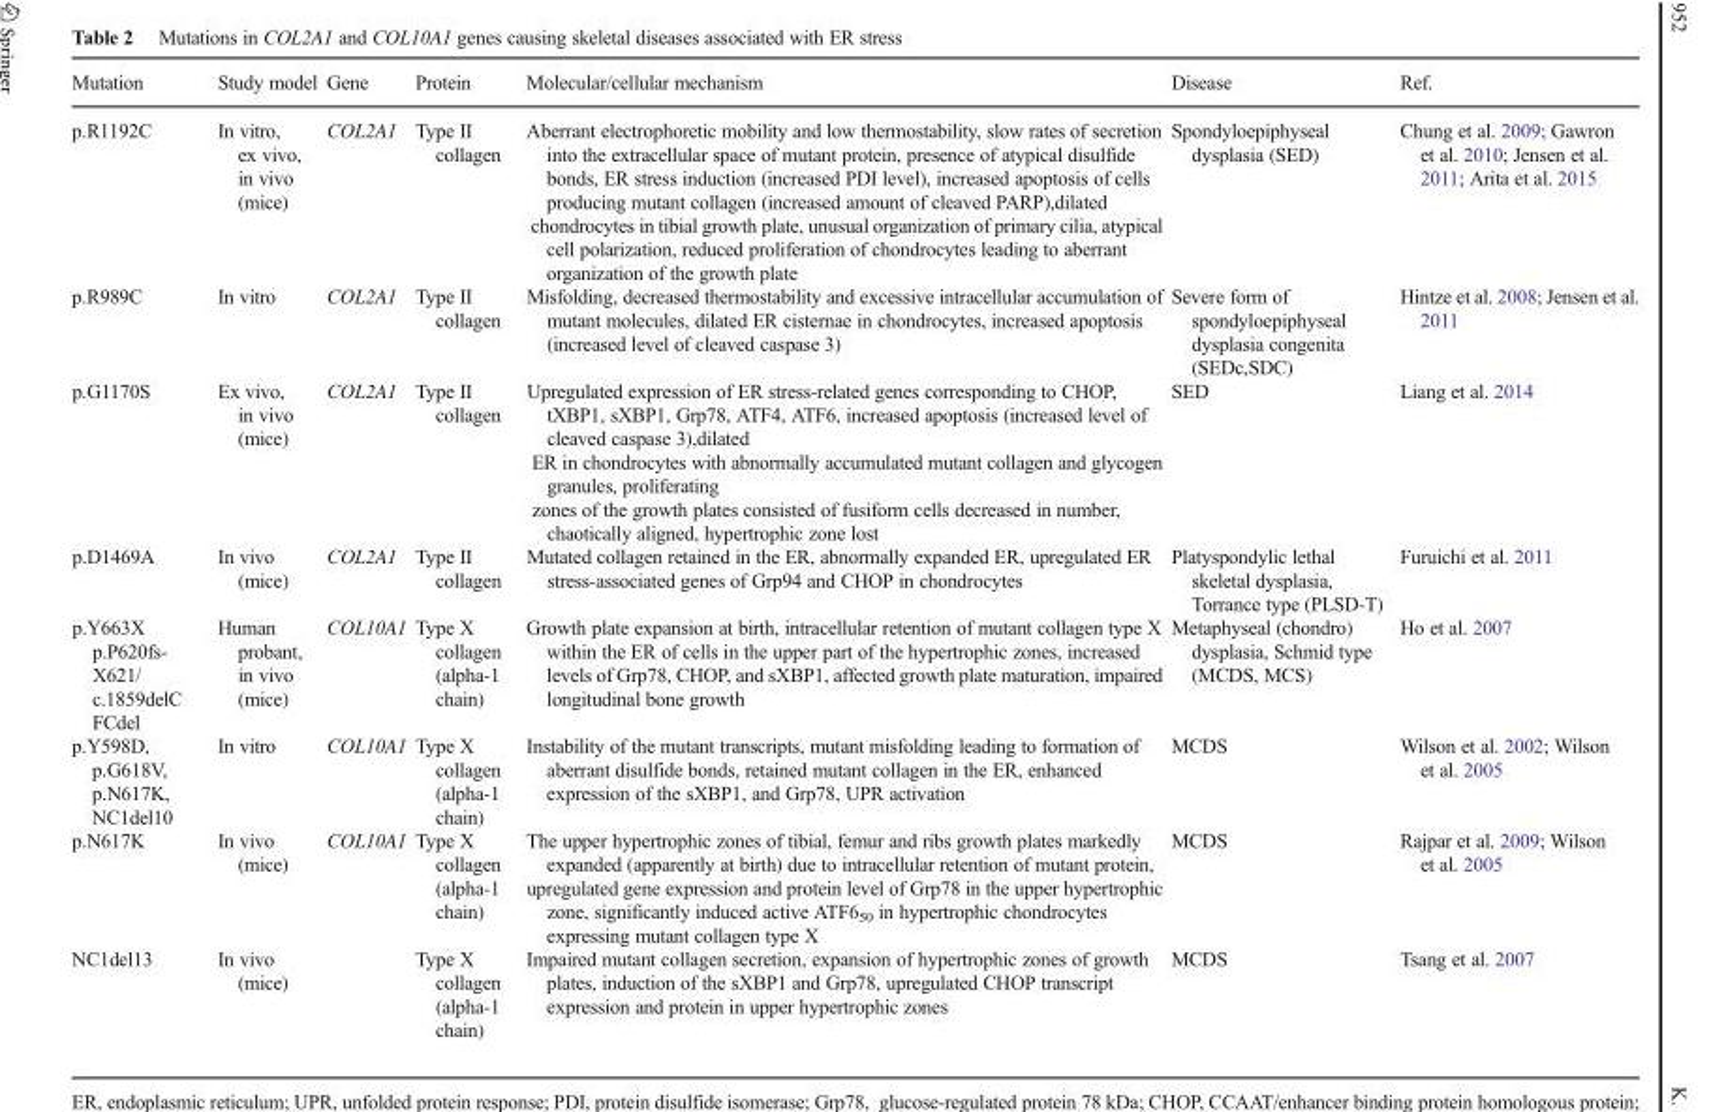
<table><thead><tr><td>Mutation</td><td>Study model</td><td>Gene</td><td>Protein</td><td>Molecular/cellular mechanism</td><td>Disease</td><td>Ref.</td></tr></thead><tbody><tr><td>p.R1192C</td><td>In vitro, ex vivo, in vivo (mice)</td><td>COL2A1</td><td>Type II collagen</td><td>Aberrant electrophoretic mobility and low thermostability, slow rates of secretion into the extracellular space of mutant protein, presence of atypical disulfide bonds, ER stress induction (increased PDI level), increased apoptosis of cells producing mutant collagen (increased amount of cleaved PARP),dilated chondrocytes in tibial growth plate, unusual organization of primary cilia, atypical cell polarization, reduced proliferation of chondrocytes leading to aberrant organization of the growth plate</td><td>Spondyloepiphyseal dysplasia (SED)</td><td>Chung et al. 2009; Gawron et al. 2010; Jensen et al. 2011; Arita et al. 2015</td></tr><tr><td>p.R989C</td><td>In vitro</td><td>COL2A1</td><td>Type II collagen</td><td>Misfolding, decreased thermostability and excessive intracellular accumulation of mutant molecules, dilated ER cisternae in chondrocytes, increased apoptosis (increased level of cleaved caspase 3)</td><td>Severe form of spondyloepiphyseal dysplasia congenita (SEDc,SDC)</td><td>Hintze et al. 2008; Jensen et al. 2011</td></tr><tr><td>p.G1170S</td><td>Ex vivo, in vivo (mice)</td><td>COL2A1</td><td>Type II collagen</td><td>Upregulated expression of ER stress-related genes corresponding to CHOP, tXBP1, sXBP1, Grp78, ATF4, ATF6, increased apoptosis (increased level of cleaved caspase 3),dilated ER in chondrocytes with abnormally accumulated mutant collagen and glycogen granules, proliferating zones of the growth plates consisted of fusiform cells decreased in number, chaotically aligned, hypertrophic zone lost</td><td>SED</td><td>Liang et al. 2014</td></tr><tr><td>p.D1469A</td><td>In vivo (mice)</td><td>COL2A1</td><td>Type II collagen</td><td>Mutated collagen retained in the ER, abnormally expanded ER, upregulated ER stress-associated genes of Grp94 and CHOP in chondrocytes</td><td>Platyspondylic lethal skeletal dysplasia, Torrance type (PLSD-T)</td><td>Furuichi et al. 2011</td></tr><tr><td>p.Y663X p.P620fs- X621/ c.1859delC FCdel</td><td>Human probant, in vivo (mice)</td><td>COL10A1</td><td>Type X collagen (alpha-1 chain)</td><td>Growth plate expansion at birth, intracellular retention of mutant collagen type X within the ER of cells in the upper part of the hypertrophic zones, increased levels of Grp78, CHOP, and sXBP1, affected growth plate maturation, impaired longitudinal bone growth</td><td>Metaphyseal (chondro) dysplasia, Schmid type (MCDS, MCS)</td><td>Ho et al. 2007</td></tr><tr><td>p.Y598D, p.G618V, p.N617K, NC1del10</td><td>In vitro</td><td>COL10A1</td><td>Type X collagen (alpha-1 chain)</td><td>Instability of the mutant transcripts, mutant misfolding leading to formation of aberrant disulfide bonds, retained mutant collagen in the ER, enhanced expression of the sXBP1, and Grp78, UPR activation</td><td>MCDS</td><td>Wilson et al. 2002; Wilson et al. 2005</td></tr><tr><td>p.N617K</td><td>In vivo (mice)</td><td>COL10A1</td><td>Type X collagen (alpha-1 chain)</td><td>The upper hypertrophic zones of tibial, femur and ribs growth plates markedly expanded (apparently at birth) due to intracellular retention of mutant protein, upregulated gene expression and protein level of Grp78 in the upper hypertrophic zone, significantly induced active ATF6<sub>50</sub> in hypertrophic chondrocytes expressing mutant collagen type X</td><td>MCDS</td><td>Rajpar et al. 2009; Wilson et al. 2005</td></tr><tr><td>NC1del13</td><td>In vivo (mice)</td><td></td><td>Type X collagen (alpha-1 chain)</td><td>Impaired mutant collagen secretion, expansion of hypertrophic zones of growth plates, induction of the sXBP1 and Grp78, upregulated CHOP transcript expression and protein in upper hypertrophic zones</td><td>MCDS</td><td>Tsang et al. 2007</td></tr></tbody></table>